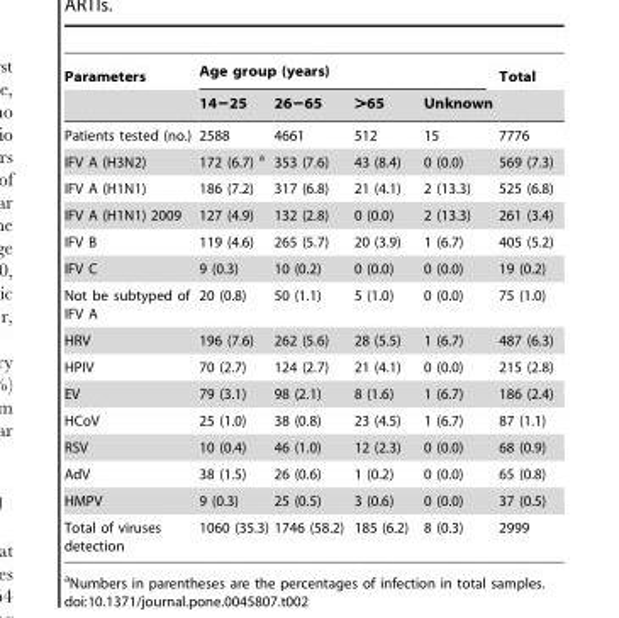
<table><thead><tr><td rowspan="2">Parameters</td><td colspan="4">Age group (years)</td><td rowspan="2">Total</td></tr><tr><td>14−25</td><td>26−65</td><td>&gt;65</td><td>Unknown</td></tr></thead><tbody><tr><td>Patients tested (no.)</td><td>2588</td><td>4661</td><td>512</td><td>15</td><td>7776</td></tr><tr><td>IFV A (H3N2)</td><td>172 (6.7) a</td><td>353 (7.6)</td><td>43 (8.4)</td><td>0 (0.0)</td><td>569 (7.3)</td></tr><tr><td>IFV A (H1N1)</td><td>186 (7.2)</td><td>317 (6.8)</td><td>21 (4.1)</td><td>2 (13.3)</td><td>525 (6.8)</td></tr><tr><td>IFV A (H1N1) 2009</td><td>127 (4.9)</td><td>132 (2.8)</td><td>0 (0.0)</td><td>2 (13.3)</td><td>261 (3.4)</td></tr><tr><td>IFV B</td><td>119 (4.6)</td><td>265 (5.7)</td><td>20 (3.9)</td><td>1 (6.7)</td><td>405 (5.2)</td></tr><tr><td>IFV C</td><td>9 (0.3)</td><td>10 (0.2)</td><td>0 (0.0)</td><td>0 (0.0)</td><td>19 (0.2)</td></tr><tr><td>Not be subtyped of IFV A</td><td>20 (0.8)</td><td>50 (1.1)</td><td>5 (1.0)</td><td>0 (0.0)</td><td>75 (1.0)</td></tr><tr><td>HRV</td><td>196 (7.6)</td><td>262 (5.6)</td><td>28 (5.5)</td><td>1 (6.7)</td><td>487 (6.3)</td></tr><tr><td>HPIV</td><td>70 (2.7)</td><td>124 (2.7)</td><td>21 (4.1)</td><td>0 (0.0)</td><td>215 (2.8)</td></tr><tr><td>EV</td><td>79 (3.1)</td><td>98 (2.1)</td><td>8 (1.6)</td><td>1 (6.7)</td><td>186 (2.4)</td></tr><tr><td>HCoV</td><td>25 (1.0)</td><td>38 (0.8)</td><td>23 (4.5)</td><td>1 (6.7)</td><td>87 (1.1)</td></tr><tr><td>RSV</td><td>10 (0.4)</td><td>46 (1.0)</td><td>12 (2.3)</td><td>0 (0.0)</td><td>68 (0.9)</td></tr><tr><td>AdV</td><td>38 (1.5)</td><td>26 (0.6)</td><td>1 (0.2)</td><td>0 (0.0)</td><td>65 (0.8)</td></tr><tr><td>HMPV</td><td>9 (0.3)</td><td>25 (0.5)</td><td>3 (0.6)</td><td>0 (0.0)</td><td>37 (0.5)</td></tr><tr><td>Total of viruses detection</td><td>1060 (35.3)</td><td>1746 (58.2)</td><td>185 (6.2)</td><td>8 (0.3)</td><td>2999</td></tr></tbody></table>